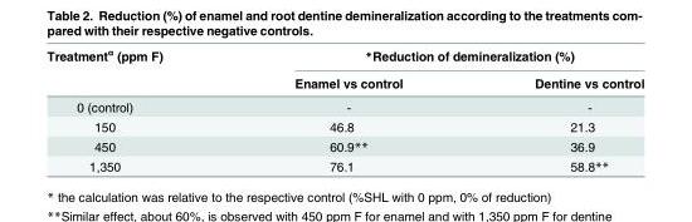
<table><thead><tr><td rowspan="2">Treatment<sup>α</sup> (ppm F)</td><td colspan="2">*Reduction of demineralization (%)</td></tr><tr><td>Enamel vs control</td><td>Dentine vs control</td></tr></thead><tbody><tr><td>0 (control)</td><td>-</td><td>-</td></tr><tr><td>150</td><td>46.8</td><td>21.3</td></tr><tr><td>450</td><td>60.9**</td><td>36.9</td></tr><tr><td>1,350</td><td>76.1</td><td>58.8**</td></tr></tbody></table>